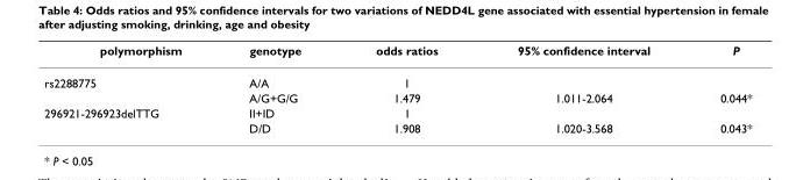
<table><thead><tr><td>polymorphism</td><td>genotype</td><td>odds ratios</td><td>95% confidence interval</td><td>P</td></tr></thead><tbody><tr><td rowspan="2">rs2288775</td><td>A/A</td><td>1</td><td></td><td></td></tr><tr><td>A/G+G/G</td><td>1.479</td><td>1.011-2.064</td><td>0.044*</td></tr><tr><td rowspan="2">296921-296923delTTG</td><td>II+ID</td><td>1</td><td></td><td></td></tr><tr><td>D/D</td><td>1.908</td><td>1.020-3.568</td><td>0.043*</td></tr></tbody></table>